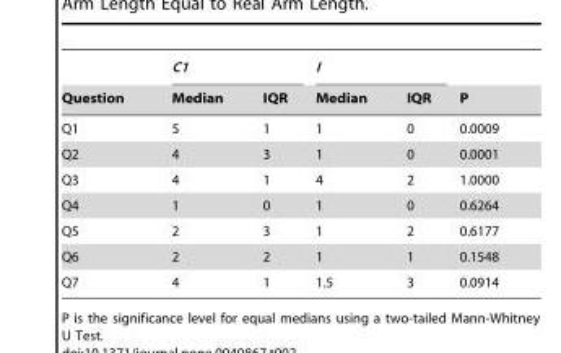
<table><thead><tr><td rowspan="2">Question</td><td colspan="2">C1</td><td colspan="2">I</td><td rowspan="2">P</td></tr><tr><td>Median</td><td>IQR</td><td>Median</td><td>IQR</td></tr></thead><tbody><tr><td>Q1</td><td>5</td><td>1</td><td>1</td><td>0</td><td>0.0009</td></tr><tr><td>Q2</td><td>4</td><td>3</td><td>1</td><td>0</td><td>0.0001</td></tr><tr><td>Q3</td><td>4</td><td>1</td><td>4</td><td>2</td><td>1.0000</td></tr><tr><td>Q4</td><td>1</td><td>0</td><td>1</td><td>0</td><td>0.6264</td></tr><tr><td>Q5</td><td>2</td><td>3</td><td>1</td><td>2</td><td>0.6177</td></tr><tr><td>Q6</td><td>2</td><td>2</td><td>1</td><td>1</td><td>0.1548</td></tr><tr><td>Q7</td><td>4</td><td>1</td><td>1.5</td><td>3</td><td>0.0914</td></tr></tbody></table>